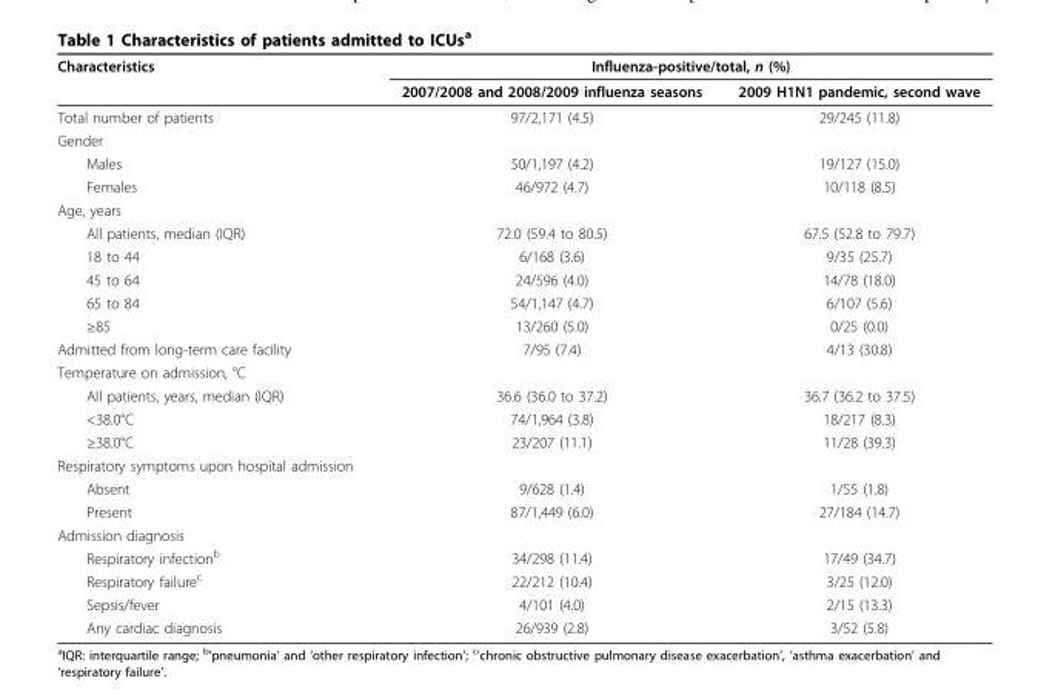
<table><thead><tr><td rowspan="2">Characteristics</td><td colspan="2">Influenza-positive/total, n (%)</td></tr><tr><td>2007/2008 and 2008/2009 influenza seasons</td><td>2009 H1N1 pandemic, second wave</td></tr></thead><tbody><tr><td>Total number of patients</td><td>97/2,171 (4.5)</td><td>29/245 (11.8)</td></tr><tr><td colspan="3">Gender</td></tr><tr><td>Males</td><td>50/1,197 (4.2)</td><td>19/127 (15.0)</td></tr><tr><td>Females</td><td>46/972 (4.7)</td><td>10/118 (8.5)</td></tr><tr><td colspan="3">Age, years</td></tr><tr><td>All patients, median (IQR)</td><td>72.0 (59.4 to 80.5)</td><td>67.5 (52.8 to 79.7)</td></tr><tr><td>18 to 44</td><td>6/168 (3.6)</td><td>9/35 (25.7)</td></tr><tr><td>45 to 64</td><td>24/596 (4.0)</td><td>14/78 (18.0)</td></tr><tr><td>65 to 84</td><td>54/1,147 (4.7)</td><td>6/107 (5.6)</td></tr><tr><td>≥85</td><td>13/260 (5.0)</td><td>0/25 (0.0)</td></tr><tr><td>Admitted from long-term care facility</td><td>7/95 (7.4)</td><td>4/13 (30.8)</td></tr><tr><td colspan="3">Temperature on admission, °C</td></tr><tr><td>All patients, years, median (IQR)</td><td>36.6 (36.0 to 37.2)</td><td>36.7 (36.2 to 37.5)</td></tr><tr><td>&lt;38.0°C</td><td>74/1,964 (3.8)</td><td>18/217 (8.3)</td></tr><tr><td>≥38.0°C</td><td>23/207 (11.1)</td><td>11/28 (39.3)</td></tr><tr><td colspan="3">Respiratory symptoms upon hospital admission</td></tr><tr><td>Absent</td><td>9/628 (1.4)</td><td>1/55 (1.8)</td></tr><tr><td>Present</td><td>87/1,449 (6.0)</td><td>27/184 (14.7)</td></tr><tr><td colspan="3">Admission diagnosis</td></tr><tr><td>Respiratory infection<sup>b</sup></td><td>34/298 (11.4)</td><td>17/49 (34.7)</td></tr><tr><td>Respiratory failure<sup>c</sup></td><td>22/212 (10.4)</td><td>3/25 (12.0)</td></tr><tr><td>Sepsis/fever</td><td>4/101 (4.0)</td><td>2/15 (13.3)</td></tr><tr><td>Any cardiac diagnosis</td><td>26/939 (2.8)</td><td>3/52 (5.8)</td></tr></tbody></table>